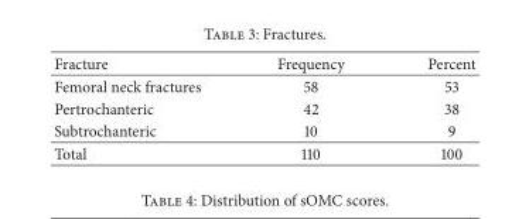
<table><thead><tr><td>Fracture</td><td>Frequency</td><td>Percent</td></tr></thead><tbody><tr><td>Femoral neck fractures</td><td>58</td><td>53</td></tr><tr><td>Pertrochanteric</td><td>42</td><td>38</td></tr><tr><td>Subtrochanteric</td><td>10</td><td>9</td></tr><tr><td>Total</td><td>110</td><td>100</td></tr></tbody></table>